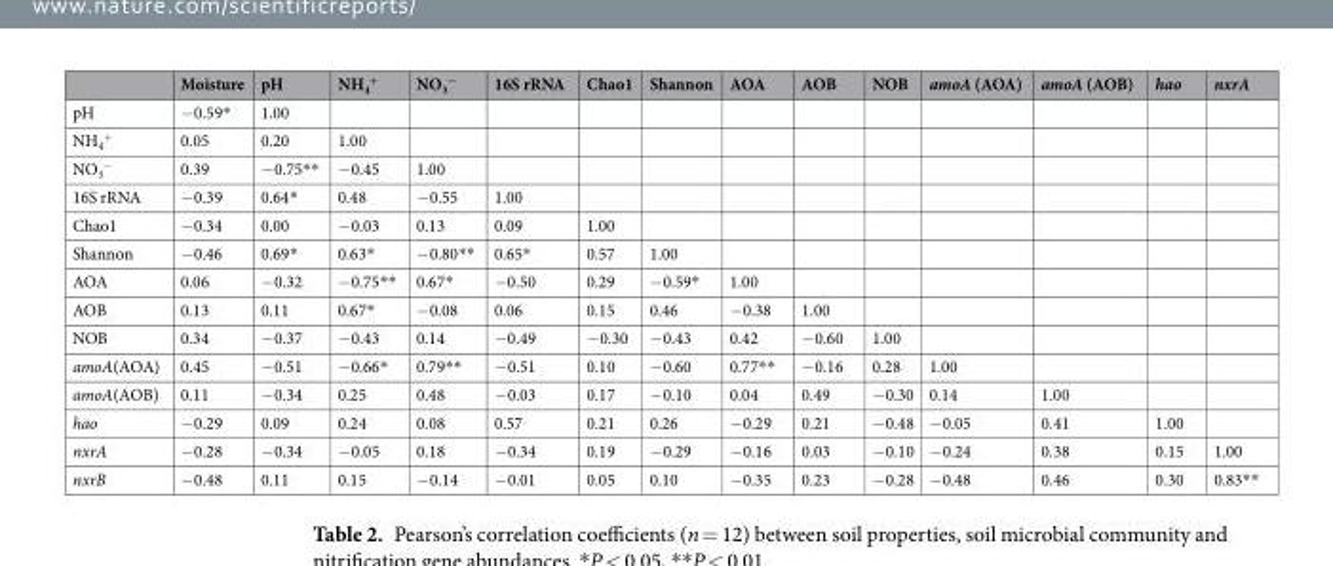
<table><thead><tr><td></td><td>Moisture</td><td>pH</td><td>NH<sub>4</sub> <sup>+</sup></td><td>NO<sub>3</sub> <sup>−</sup></td><td>16S rRNA</td><td>Chao1</td><td>Shannon</td><td>AOA</td><td>AOB</td><td>NOB</td><td>amoA (AOA)</td><td>amoA (AOB)</td><td>hao</td><td>nxrA</td></tr></thead><tbody><tr><td>pH</td><td>−0.59*</td><td>1.00</td><td></td><td></td><td></td><td></td><td></td><td></td><td></td><td></td><td></td><td></td><td></td><td></td></tr><tr><td>NH<sub>4</sub> <sup>+</sup></td><td>0.05</td><td>0.20</td><td>1.00</td><td></td><td></td><td></td><td></td><td></td><td></td><td></td><td></td><td></td><td></td><td></td></tr><tr><td>NO<sub>3</sub> <sup>−</sup></td><td>0.39</td><td>−0.75**</td><td>−0.45</td><td>1.00</td><td></td><td></td><td></td><td></td><td></td><td></td><td></td><td></td><td></td><td></td></tr><tr><td>16S rRNA</td><td>−0.39</td><td>0.64*</td><td>0.48</td><td>−0.55</td><td>1.00</td><td></td><td></td><td></td><td></td><td></td><td></td><td></td><td></td><td></td></tr><tr><td>Chao1</td><td>−0.34</td><td>0.00</td><td>−0.03</td><td>0.13</td><td>0.09</td><td>1.00</td><td></td><td></td><td></td><td></td><td></td><td></td><td></td><td></td></tr><tr><td>Shannon</td><td>−0.46</td><td>0.69*</td><td>0.63*</td><td>−0.80**</td><td>0.65*</td><td>0.57</td><td>1.00</td><td></td><td></td><td></td><td></td><td></td><td></td><td></td></tr><tr><td>AOA</td><td>0.06</td><td>−0.32</td><td>−0.75**</td><td>0.67*</td><td>−0.50</td><td>0.29</td><td>−0.59*</td><td>1.00</td><td></td><td></td><td></td><td></td><td></td><td></td></tr><tr><td>AOB</td><td>0.13</td><td>0.11</td><td>0.67*</td><td>−0.08</td><td>0.06</td><td>0.15</td><td>0.46</td><td>−0.38</td><td>1.00</td><td></td><td></td><td></td><td></td><td></td></tr><tr><td>NOB</td><td>0.34</td><td>−0.37</td><td>−0.43</td><td>0.14</td><td>−0.49</td><td>−0.30</td><td>−0.43</td><td>0.42</td><td>−0.60</td><td>1.00</td><td></td><td></td><td></td><td></td></tr><tr><td>amoA(AOA)</td><td>0.45</td><td>−0.51</td><td>−0.66*</td><td>0.79**</td><td>−0.51</td><td>0.10</td><td>−0.60</td><td>0.77**</td><td>−0.16</td><td>0.28</td><td>1.00</td><td></td><td></td><td></td></tr><tr><td>amoA(AOB)</td><td>0.11</td><td>−0.34</td><td>0.25</td><td>0.48</td><td>−0.03</td><td>0.17</td><td>−0.10</td><td>0.04</td><td>0.49</td><td>−0.30</td><td>0.14</td><td>1.00</td><td></td><td></td></tr><tr><td>hao</td><td>−0.29</td><td>0.09</td><td>0.24</td><td>0.08</td><td>0.57</td><td>0.21</td><td>0.26</td><td>−0.29</td><td>0.21</td><td>−0.48</td><td>−0.05</td><td>0.41</td><td>1.00</td><td></td></tr><tr><td>nxrA</td><td>−0.28</td><td>−0.34</td><td>−0.05</td><td>0.18</td><td>−0.34</td><td>0.19</td><td>−0.29</td><td>−0.16</td><td>0.03</td><td>−0.10</td><td>−0.24</td><td>0.38</td><td>0.15</td><td>1.00</td></tr><tr><td>nxrB</td><td>−0.48</td><td>0.11</td><td>0.15</td><td>−0.14</td><td>−0.01</td><td>0.05</td><td>0.10</td><td>−0.35</td><td>0.23</td><td>−0.28</td><td>−0.48</td><td>0.46</td><td>0.30</td><td>0.83**</td></tr></tbody></table>